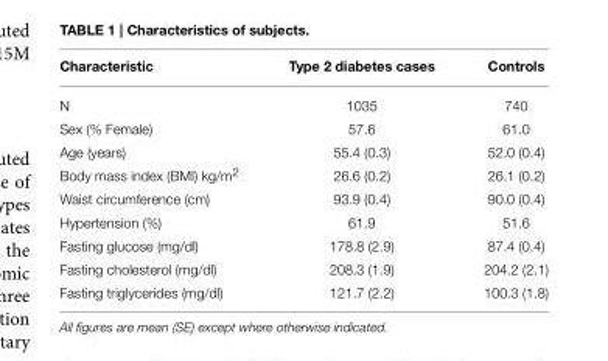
<table><thead><tr><td>Characteristic</td><td>Type 2 diabetes cases</td><td>Controls</td></tr></thead><tbody><tr><td>N</td><td>1035</td><td>740</td></tr><tr><td>Sex (% Female)</td><td>57.6</td><td>61.0</td></tr><tr><td>Age (years)</td><td>55.4 (0.3)</td><td>52.0 (0.4)</td></tr><tr><td>Body mass index (BMI) kg/m<sup>2</sup></td><td>26.6 (0.2)</td><td>26.1 (0.2)</td></tr><tr><td>Waist circumference (cm)</td><td>93.9 (0.4)</td><td>90.0 (0.4)</td></tr><tr><td>Hypertension (%)</td><td>61.9</td><td>51.6</td></tr><tr><td>Fasting glucose (mg/dl)</td><td>178.8 (2.9)</td><td>87.4 (0.4)</td></tr><tr><td>Fasting cholesterol (mg/dl)</td><td>208.3 (1.9)</td><td>204.2 (2.1)</td></tr><tr><td>Fasting triglycerides (mg/dl)</td><td>121.7 (2.2)</td><td>100.3 (1.8)</td></tr></tbody></table>